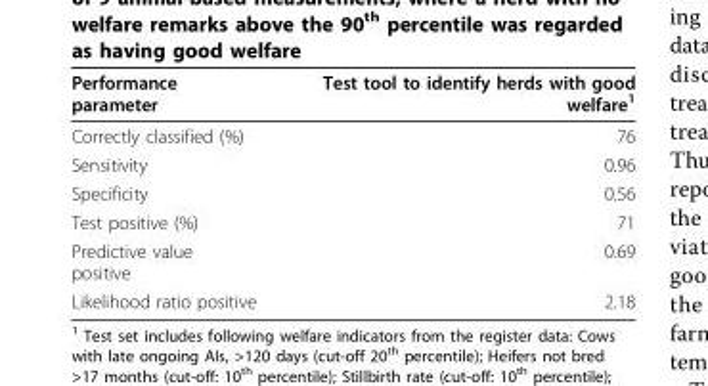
<table><thead><tr><td>Performance parameter</td><td>Test tool to identify herds with good welfare<sup>1</sup></td></tr></thead><tbody><tr><td>Correctly classified (%)</td><td>76</td></tr><tr><td>Sensitivity</td><td>0.96</td></tr><tr><td>Specificity</td><td>0.56</td></tr><tr><td>Test positive (%)</td><td>71</td></tr><tr><td>Predictive value positive</td><td>0.69</td></tr><tr><td>Likelihood ratio positive</td><td>2.18</td></tr></tbody></table>